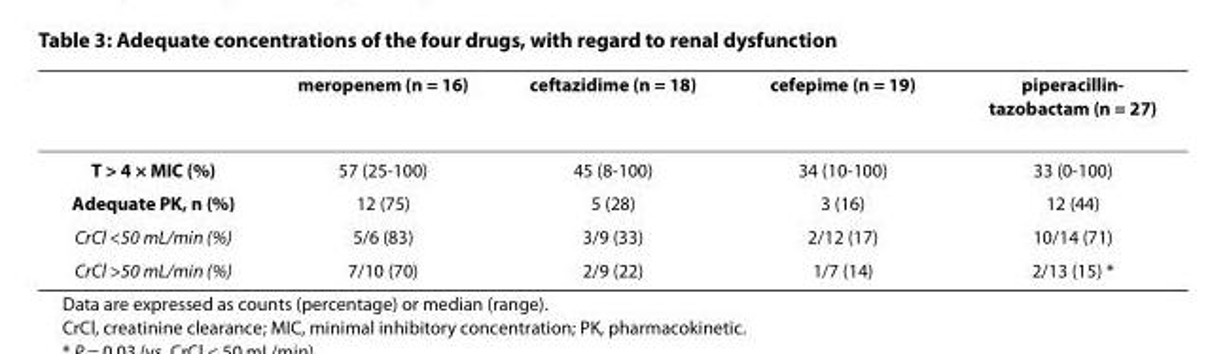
<table><thead><tr><td></td><td>meropenem (n = 16)</td><td>ceftazidime (n = 18)</td><td>cefepime (n = 19)</td><td>piperacillin- tazobactam (n = 27)</td></tr></thead><tbody><tr><td>T &gt; 4 × MIC (%)</td><td>57 (25-100)</td><td>45 (8-100)</td><td>34 (10-100)</td><td>33 (0-100)</td></tr><tr><td>Adequate PK, n (%)</td><td>12 (75)</td><td>5 (28)</td><td>3 (16)</td><td>12 (44)</td></tr><tr><td>CrCl &lt;50 mL/min (%)</td><td>5/6 (83)</td><td>3/9 (33)</td><td>2/12 (17)</td><td>10/14 (71)</td></tr><tr><td>CrCl &gt;50 mL/min (%)</td><td>7/10 (70)</td><td>2/9 (22)</td><td>1/7 (14)</td><td>2/13 (15) *</td></tr></tbody></table>